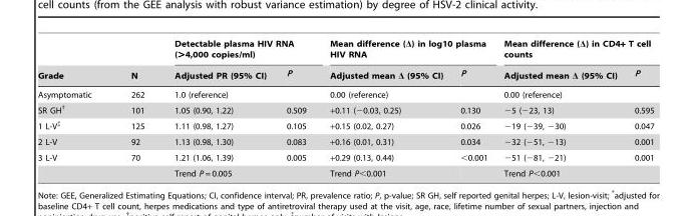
<table><thead><tr><td rowspan="2">Grade</td><td rowspan="2">N</td><td colspan="2">Detectable plasma HIV RNA (&gt;4,000 copies/ml)</td><td colspan="2">Mean difference (Δ) in log10 plasma HIV RNA</td><td colspan="2">Mean difference (Δ) in CD4+ T cell counts</td></tr><tr><td>Adjusted PR (95% CI)</td><td>P</td><td>Adjusted mean Δ (95% CI)</td><td>P</td><td>Adjusted mean Δ (95% CI)</td><td>P</td></tr></thead><tbody><tr><td>Asymptomatic</td><td>262</td><td>1.0 (reference)</td><td></td><td>0.00 (reference)</td><td></td><td>0.00 (reference)</td><td></td></tr><tr><td>SR GH<sup>†</sup></td><td>101</td><td>1.05 (0.90, 1.22)</td><td>0.509</td><td>+0.11 (−0.03, 0.25)</td><td>0.130</td><td>−5 (−23, 13)</td><td>0.595</td></tr><tr><td>1 L-V<sup>‡</sup></td><td>125</td><td>1.11 (0.98, 1.27)</td><td>0.105</td><td>+0.15 (0.02, 0.27)</td><td>0.026</td><td>−19 (−39, −30)</td><td>0.047</td></tr><tr><td>2 L-V</td><td>92</td><td>1.13 (0.98, 1.30)</td><td>0.083</td><td>+0.16 (0.01, 0.31)</td><td>0.034</td><td>−32 (−51, −13)</td><td>0.001</td></tr><tr><td rowspan="2">3 L-V</td><td>70</td><td>1.21 (1.06, 1.39)</td><td>0.005</td><td>+0.29 (0.13, 0.44)</td><td>&lt;0.001</td><td>−51 (−81, −21)</td><td>0.001</td></tr><tr><td></td><td>Trend P = 0.005</td><td></td><td>Trend P&lt;0.001</td><td></td><td>Trend P&lt;0.001</td><td></td></tr></tbody></table>